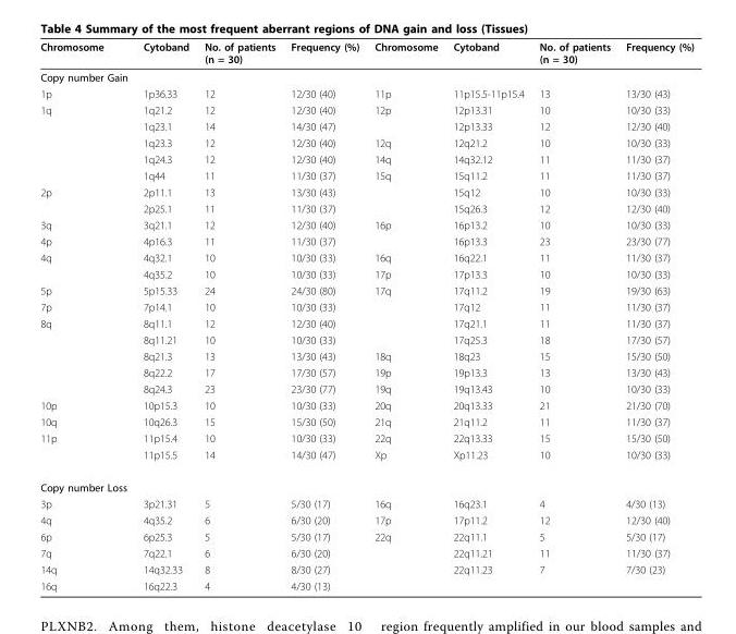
<table><thead><tr><td>Chromosome</td><td>Cytoband</td><td>No. of patients (n = 30)</td><td>Frequency (%)</td><td>Chromosome</td><td>Cytoband</td><td>No. of patients (n = 30)</td><td>Frequency (%)</td></tr></thead><tbody><tr><td colspan="8">Copy number Gain</td></tr><tr><td>1p</td><td>1p36.33</td><td>12</td><td>12/30 (40)</td><td>11p</td><td>11p15.5-11p15.4</td><td>13</td><td>13/30 (43)</td></tr><tr><td rowspan="5">1q</td><td>1q21.2</td><td>12</td><td>12/30 (40)</td><td>12p</td><td>12p13.31</td><td>10</td><td>10/30 (33)</td></tr><tr><td>1q23.1</td><td>14</td><td>14/30 (47)</td><td></td><td>12p13.33</td><td>12</td><td>12/30 (40)</td></tr><tr><td>1q23.3</td><td>12</td><td>12/30 (40)</td><td>12q</td><td>12q21.2</td><td>10</td><td>10/30 (33)</td></tr><tr><td>1q24.3</td><td>12</td><td>12/30 (40)</td><td>14q</td><td>14q32.12</td><td>11</td><td>11/30 (37)</td></tr><tr><td>1q44</td><td>11</td><td>11/30 (37)</td><td>15q</td><td>15q11.2</td><td>11</td><td>11/30 (37)</td></tr><tr><td rowspan="2">2p</td><td>2p11.1</td><td>13</td><td>13/30 (43)</td><td></td><td>15q12</td><td>10</td><td>10/30 (33)</td></tr><tr><td>2p25.1</td><td>11</td><td>11/30 (37)</td><td></td><td>15q26.3</td><td>12</td><td>12/30 (40)</td></tr><tr><td>3q</td><td>3q21.1</td><td>12</td><td>12/30 (40)</td><td>16p</td><td>16p13.2</td><td>10</td><td>10/30 (33)</td></tr><tr><td>4p</td><td>4p16.3</td><td>11</td><td>11/30 (37)</td><td></td><td>16p13.3</td><td>23</td><td>23/30 (77)</td></tr><tr><td rowspan="2">4q</td><td>4q32.1</td><td>10</td><td>10/30 (33)</td><td>16q</td><td>16q22.1</td><td>11</td><td>11/30 (37)</td></tr><tr><td>4q35.2</td><td>10</td><td>10/30 (33)</td><td>17p</td><td>17p13.3</td><td>10</td><td>10/30 (33)</td></tr><tr><td>5p</td><td>5p15.33</td><td>24</td><td>24/30 (80)</td><td>17q</td><td>17q11.2</td><td>19</td><td>19/30 (63)</td></tr><tr><td>7p</td><td>7p14.1</td><td>10</td><td>10/30 (33)</td><td></td><td>17q12</td><td>11</td><td>11/30 (37)</td></tr><tr><td rowspan="5">8q</td><td>8q11.1</td><td>12</td><td>12/30 (40)</td><td></td><td>17q21.1</td><td>11</td><td>11/30 (37)</td></tr><tr><td>8q11.21</td><td>10</td><td>10/30 (33)</td><td></td><td>17q25.3</td><td>18</td><td>17/30 (57)</td></tr><tr><td>8q21.3</td><td>13</td><td>13/30 (43)</td><td>18q</td><td>18q23</td><td>15</td><td>15/30 (50)</td></tr><tr><td>8q22.2</td><td>17</td><td>17/30 (57)</td><td>19p</td><td>19p13.3</td><td>13</td><td>13/30 (43)</td></tr><tr><td>8q24.3</td><td>23</td><td>23/30 (77)</td><td>19q</td><td>19q13.43</td><td>10</td><td>10/30 (33)</td></tr><tr><td>10p</td><td>10p15.3</td><td>10</td><td>10/30 (33)</td><td>20q</td><td>20q13.33</td><td>21</td><td>21/30 (70)</td></tr><tr><td>10q</td><td>10q26.3</td><td>15</td><td>15/30 (50)</td><td>21q</td><td>21q11.2</td><td>11</td><td>11/30 (37)</td></tr><tr><td rowspan="2">11p</td><td>11p15.4</td><td>10</td><td>10/30 (33)</td><td>22q</td><td>22q13.33</td><td>15</td><td>15/30 (50)</td></tr><tr><td>11p15.5</td><td>14</td><td>14/30 (47)</td><td>Xp</td><td>Xp11.23</td><td>10</td><td>10/30 (33)</td></tr><tr><td colspan="8">Copy number Loss</td></tr><tr><td>3p</td><td>3p21.31</td><td>5</td><td>5/30 (17)</td><td>16q</td><td>16q23.1</td><td>4</td><td>4/30 (13)</td></tr><tr><td>4q</td><td>4q35.2</td><td>6</td><td>6/30 (20)</td><td>17p</td><td>17p11.2</td><td>12</td><td>12/30 (40)</td></tr><tr><td>6p</td><td>6p25.3</td><td>5</td><td>5/30 (17)</td><td>22q</td><td>22q11.1</td><td>5</td><td>5/30 (17)</td></tr><tr><td>7q</td><td>7q22.1</td><td>6</td><td>6/30 (20)</td><td></td><td>22q11.21</td><td>11</td><td>11/30 (37)</td></tr><tr><td>14q</td><td>14q32.33</td><td>8</td><td>8/30 (27)</td><td></td><td>22q11.23</td><td>7</td><td>7/30 (23)</td></tr><tr><td>16q</td><td>16q22.3</td><td>4</td><td>4/30 (13)</td><td></td><td></td><td></td><td></td></tr></tbody></table>